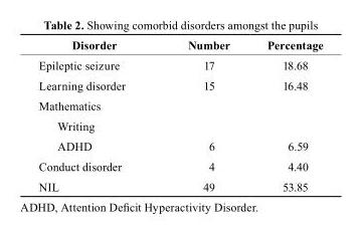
<table><thead><tr><td>Disorder</td><td>Number</td><td>Percentage</td></tr></thead><tbody><tr><td>Epileptic seizure</td><td>17</td><td>18.68</td></tr><tr><td>Learning disorder</td><td>15</td><td>16.48</td></tr><tr><td colspan="3">Mathematics</td></tr><tr><td colspan="3">Writing</td></tr><tr><td>ADHD</td><td>6</td><td>6.59</td></tr><tr><td>Conduct disorder</td><td>4</td><td>4.40</td></tr><tr><td>NIL</td><td>49</td><td>53.85</td></tr></tbody></table>